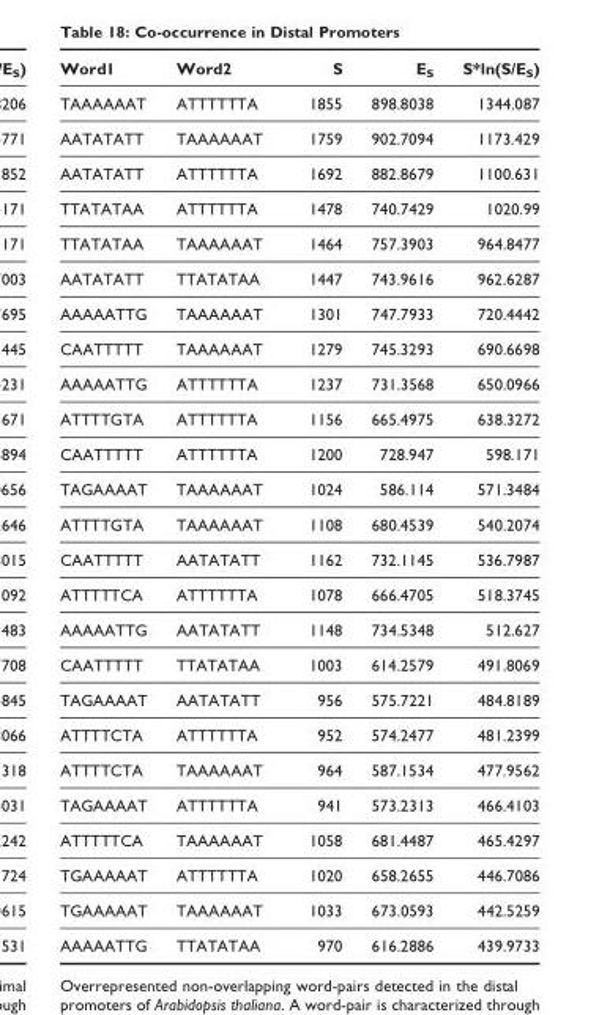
<table><thead><tr><td>Word1</td><td>Word2</td><td>S</td><td>E<sub>S</sub></td><td>S*ln(S/E<sub>S</sub>)</td></tr></thead><tbody><tr><td>TAAAAAAT</td><td>ATTTTTTA</td><td>1855</td><td>898.8038</td><td>1344.087</td></tr><tr><td>AATATATT</td><td>TAAAAAAT</td><td>1759</td><td>902.7094</td><td>1173.429</td></tr><tr><td>AATATATT</td><td>ATTTTTTA</td><td>1692</td><td>882.8679</td><td>1100.631</td></tr><tr><td>TTATATAA</td><td>ATTTTTTA</td><td>1478</td><td>740.7429</td><td>1020.99</td></tr><tr><td>TTATATAA</td><td>TAAAAAAT</td><td>1464</td><td>757.3903</td><td>964.8477</td></tr><tr><td>AATATATT</td><td>TTATATAA</td><td>1447</td><td>743.9616</td><td>962.6287</td></tr><tr><td>AAAAATTG</td><td>TAAAAAAT</td><td>1301</td><td>747.7933</td><td>720.4442</td></tr><tr><td>CAATTTTT</td><td>TAAAAAAT</td><td>1279</td><td>745.3293</td><td>690.6698</td></tr><tr><td>AAAAATTG</td><td>ATTTTTTA</td><td>1237</td><td>731.3568</td><td>650.0966</td></tr><tr><td>ATTTTGTA</td><td>ATTTTTTA</td><td>1156</td><td>665.4975</td><td>638.3272</td></tr><tr><td>CAATTTTT</td><td>ATTTTTTA</td><td>1200</td><td>728.947</td><td>598.171</td></tr><tr><td>TAGAAAAT</td><td>TAAAAAAT</td><td>1024</td><td>586.114</td><td>571.3484</td></tr><tr><td>ATTTTGTA</td><td>TAAAAAAT</td><td>1108</td><td>680.4539</td><td>540.2074</td></tr><tr><td>CAATTTTT</td><td>AATATATT</td><td>1162</td><td>732.1145</td><td>536.7987</td></tr><tr><td>ATTTTTCA</td><td>ATTTTTTA</td><td>1078</td><td>666.4705</td><td>518.3745</td></tr><tr><td>AAAAATTG</td><td>AATATATT</td><td>1148</td><td>734.5348</td><td>512.627</td></tr><tr><td>CAATTTTT</td><td>TTATATAA</td><td>1003</td><td>614.2579</td><td>491.8069</td></tr><tr><td>TAGAAAAT</td><td>AATATATT</td><td>956</td><td>575.7221</td><td>484.8189</td></tr><tr><td>ATTTTCTA</td><td>ATTTTTTA</td><td>952</td><td>574.2477</td><td>481.2399</td></tr><tr><td>ATTTTCTA</td><td>TAAAAAAT</td><td>964</td><td>587.1534</td><td>477.9562</td></tr><tr><td>TAGAAAAT</td><td>ATTTTTTA</td><td>941</td><td>573.2313</td><td>466.4103</td></tr><tr><td>ATTTTTCA</td><td>TAAAAAAT</td><td>1058</td><td>681.4487</td><td>465.4297</td></tr><tr><td>TGAAAAAT</td><td>ATTTTTTA</td><td>1020</td><td>658.2655</td><td>446.7086</td></tr><tr><td>TGAAAAAT</td><td>TAAAAAAT</td><td>1033</td><td>673.0593</td><td>442.5259</td></tr><tr><td>AAAAATTG</td><td>TTATATAA</td><td>970</td><td>616.2886</td><td>439.9733</td></tr></tbody></table>